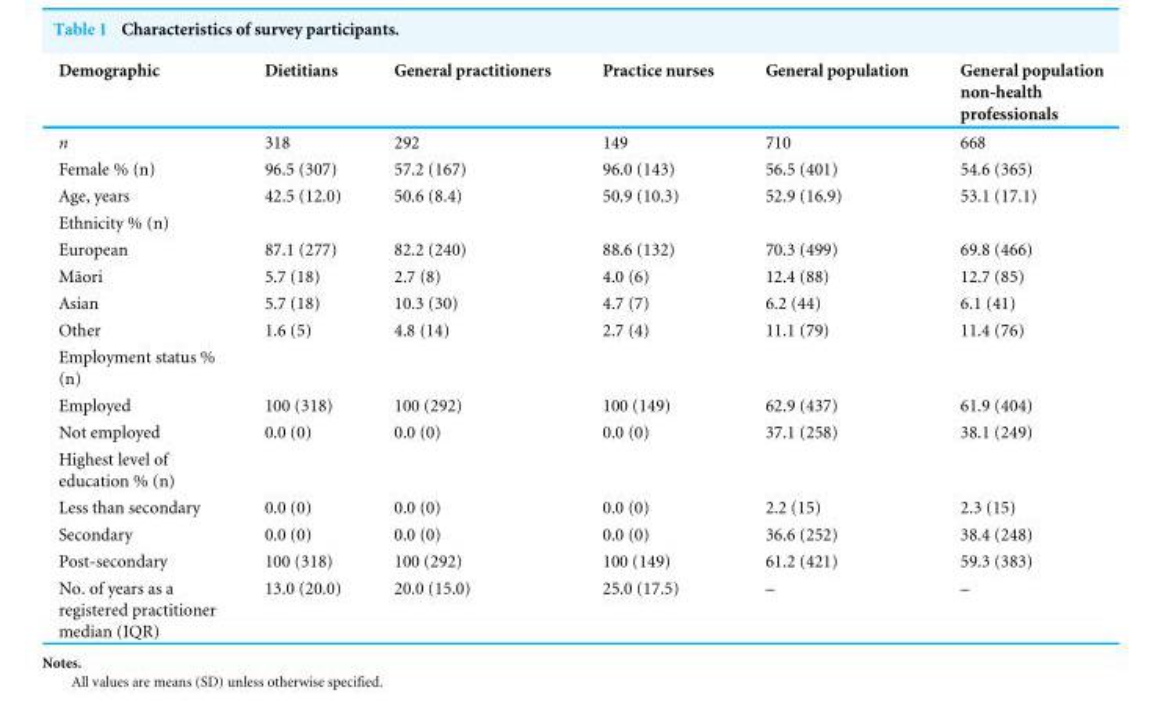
<table><thead><tr><td>Demographic</td><td>Dietitians</td><td>General practitioners</td><td>Practice nurses</td><td>General population</td><td>General population non-health professionals</td></tr></thead><tbody><tr><td>n</td><td>318</td><td>292</td><td>149</td><td>710</td><td>668</td></tr><tr><td>Female % (n)</td><td>96.5 (307)</td><td>57.2 (167)</td><td>96.0 (143)</td><td>56.5 (401)</td><td>54.6 (365)</td></tr><tr><td>Age, years</td><td>42.5 (12.0)</td><td>50.6 (8.4)</td><td>50.9 (10.3)</td><td>52.9 (16.9)</td><td>53.1 (17.1)</td></tr><tr><td colspan="6">Ethnicity % (n)</td></tr><tr><td>European</td><td>87.1 (277)</td><td>82.2 (240)</td><td>88.6 (132)</td><td>70.3 (499)</td><td>69.8 (466)</td></tr><tr><td>M¯aori</td><td>5.7 (18)</td><td>2.7 (8)</td><td>4.0 (6)</td><td>12.4 (88)</td><td>12.7 (85)</td></tr><tr><td>Asian</td><td>5.7 (18)</td><td>10.3 (30)</td><td>4.7 (7)</td><td>6.2 (44)</td><td>6.1 (41)</td></tr><tr><td>Other</td><td>1.6 (5)</td><td>4.8 (14)</td><td>2.7 (4)</td><td>11.1 (79)</td><td>11.4 (76)</td></tr><tr><td colspan="6">Employment status % (n)</td></tr><tr><td>Employed</td><td>100 (318)</td><td>100 (292)</td><td>100 (149)</td><td>62.9 (437)</td><td>61.9 (404)</td></tr><tr><td>Not employed</td><td>0.0 (0)</td><td>0.0 (0)</td><td>0.0 (0)</td><td>37.1 (258)</td><td>38.1 (249)</td></tr><tr><td colspan="6">Highest level of education % (n)</td></tr><tr><td>Less than secondary</td><td>0.0 (0)</td><td>0.0 (0)</td><td>0.0 (0)</td><td>2.2 (15)</td><td>2.3 (15)</td></tr><tr><td>Secondary</td><td>0.0 (0)</td><td>0.0 (0)</td><td>0.0 (0)</td><td>36.6 (252)</td><td>38.4 (248)</td></tr><tr><td>Post-secondary</td><td>100 (318)</td><td>100 (292)</td><td>100 (149)</td><td>61.2 (421)</td><td>59.3 (383)</td></tr><tr><td>No. of years as a registered practitioner median (IQR)</td><td>13.0 (20.0)</td><td>20.0 (15.0)</td><td>25.0 (17.5)</td><td>–</td><td>–</td></tr></tbody></table>